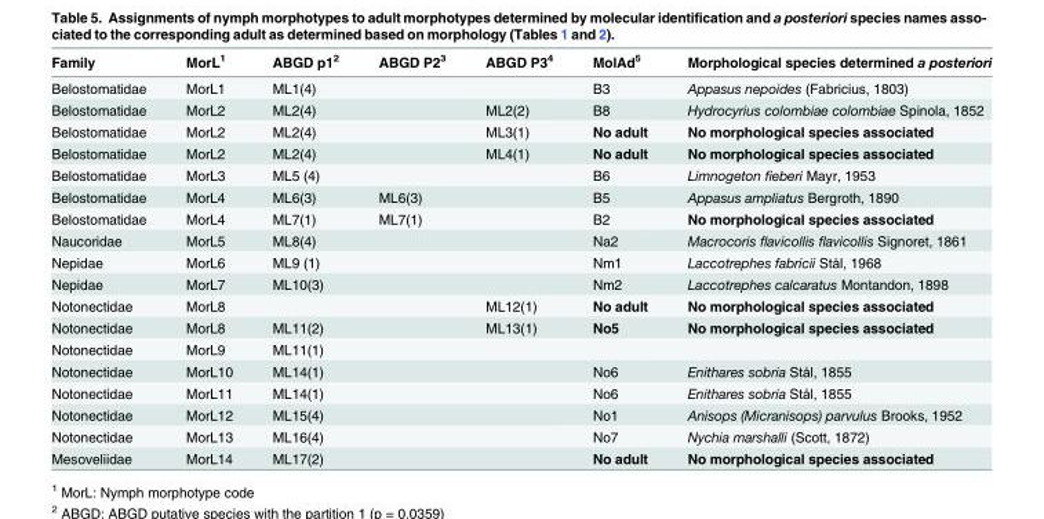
<table><thead><tr><td>Family</td><td>MorL<sup>1</sup></td><td>ABGD p1<sup>2</sup></td><td>ABGD P2<sup>3</sup></td><td>ABGD P3<sup>4</sup></td><td>MolAd<sup>5</sup></td><td>Morphological species determined a posteriori</td></tr></thead><tbody><tr><td>Belostomatidae</td><td>MorL1</td><td>ML1(4)</td><td></td><td></td><td>B3</td><td>Appasus nepoides (Fabricius, 1803)</td></tr><tr><td>Belostomatidae</td><td>MorL2</td><td>ML2(4)</td><td></td><td>ML2(2)</td><td>B8</td><td>Hydrocyrius colombiae colombiae Spinola, 1852</td></tr><tr><td>Belostomatidae</td><td>MorL2</td><td>ML2(4)</td><td></td><td>ML3(1)</td><td>No adult</td><td>No morphological species associated</td></tr><tr><td>Belostomatidae</td><td>MorL2</td><td>ML2(4)</td><td></td><td>ML4(1)</td><td>No adult</td><td>No morphological species associated</td></tr><tr><td>Belostomatidae</td><td>MorL3</td><td>ML5 (4)</td><td></td><td></td><td>B6</td><td>Limnogeton fieberi Mayr, 1953</td></tr><tr><td>Belostomatidae</td><td>MorL4</td><td>ML6(3)</td><td>ML6(3)</td><td></td><td>B5</td><td>Appasus ampliatus Bergroth, 1890</td></tr><tr><td>Belostomatidae</td><td>MorL4</td><td>ML7(1)</td><td>ML7(1)</td><td></td><td>B2</td><td>No morphological species associated</td></tr><tr><td>Naucoridae</td><td>MorL5</td><td>ML8(4)</td><td></td><td></td><td>Na2</td><td>Macrocoris flavicollis flavicollis Signoret, 1861</td></tr><tr><td>Nepidae</td><td>MorL6</td><td>ML9 (1)</td><td></td><td></td><td>Nm1</td><td>Laccotrephes fabricii Stål, 1968</td></tr><tr><td>Nepidae</td><td>MorL7</td><td>ML10(3)</td><td></td><td></td><td>Nm2</td><td>Laccotrephes calcaratus Montandon, 1898</td></tr><tr><td>Notonectidae</td><td>MorL8</td><td></td><td></td><td>ML12(1)</td><td>No adult</td><td>No morphological species associated</td></tr><tr><td>Notonectidae</td><td>MorL8</td><td>ML11(2)</td><td></td><td>ML13(1)</td><td>No5</td><td>No morphological species associated</td></tr><tr><td>Notonectidae</td><td>MorL9</td><td>ML11(1)</td><td></td><td></td><td></td><td></td></tr><tr><td>Notonectidae</td><td>MorL10</td><td>ML14(1)</td><td></td><td></td><td>No6</td><td>Enithares sobria Stål, 1855</td></tr><tr><td>Notonectidae</td><td>MorL11</td><td>ML14(1)</td><td></td><td></td><td>No6</td><td>Enithares sobria Stål, 1855</td></tr><tr><td>Notonectidae</td><td>MorL12</td><td>ML15(4)</td><td></td><td></td><td>No1</td><td>Anisops (Micranisops) parvulus Brooks, 1952</td></tr><tr><td>Notonectidae</td><td>MorL13</td><td>ML16(4)</td><td></td><td></td><td>No7</td><td>Nychia marshalli (Scott, 1872)</td></tr><tr><td>Mesoveliidae</td><td>MorL14</td><td>ML17(2)</td><td></td><td></td><td>No adult</td><td>No morphological species associated</td></tr></tbody></table>